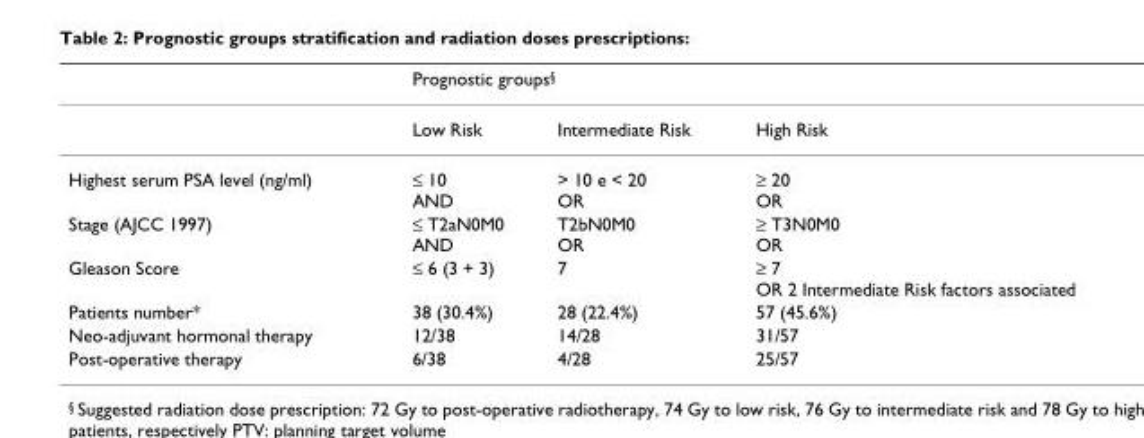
<table><thead><tr><td rowspan="2"></td><td colspan="3">Prognostic groups<sup>§</sup></td></tr><tr><td>Low Risk</td><td>Intermediate Risk</td><td>High Risk</td></tr></thead><tbody><tr><td>Highest serum PSA level (ng/ml)</td><td>≤ 10 AND</td><td>&gt; 10 e &lt; 20 OR</td><td>≥ 20 OR</td></tr><tr><td>Stage (AJCC 1997)</td><td>≤ T2aN0M0 AND</td><td>T2bN0M0 OR</td><td>≥ T3N0M0 OR</td></tr><tr><td>Gleason Score</td><td>≤ 6 (3 + 3)</td><td>7</td><td>≥ 7 OR 2 Intermediate Risk factors associated</td></tr><tr><td>Patients number*</td><td>38 (30.4%)</td><td>28 (22.4%)</td><td>57 (45.6%)</td></tr><tr><td>Neo-adjuvant hormonal therapy</td><td>12/38</td><td>14/28</td><td>31/57</td></tr><tr><td>Post-operative therapy</td><td>6/38</td><td>4/28</td><td>25/57</td></tr></tbody></table>